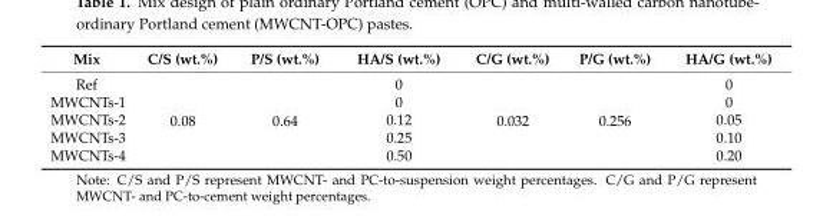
<table><thead><tr><td>Mix</td><td>C/S (wt.%)</td><td>P/S (wt.%)</td><td>HA/S (wt.%)</td><td>C/G (wt.%)</td><td>P/G (wt.%)</td><td>HA/G (wt.%)</td></tr></thead><tbody><tr><td>Ref</td><td rowspan="5">0.08</td><td rowspan="5">0.64</td><td>0</td><td rowspan="5">0.032</td><td rowspan="5">0.256</td><td>0</td></tr><tr><td>MWCNTs-1</td><td>0</td><td>0</td></tr><tr><td>MWCNTs-2</td><td>0.12</td><td>0.05</td></tr><tr><td>MWCNTs-3</td><td>0.25</td><td>0.10</td></tr><tr><td>MWCNTs-4</td><td>0.50</td><td>0.20</td></tr></tbody></table>